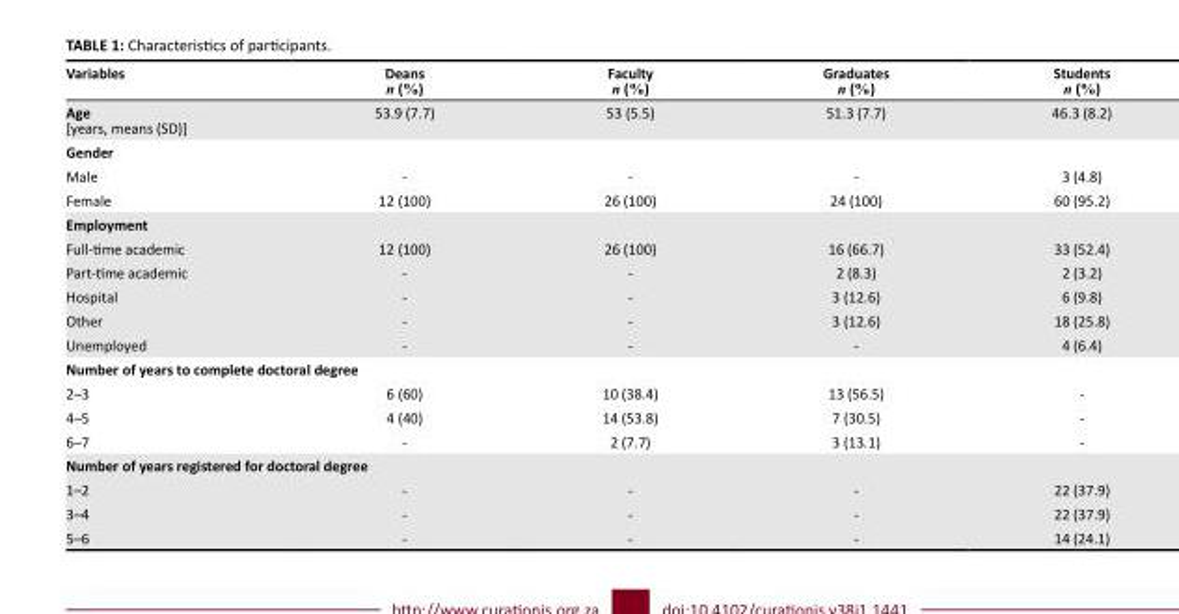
<table><thead><tr><td>Variables</td><td>Deans n (%)</td><td>Faculty n (%)</td><td>Graduates n (%)</td><td>Students n (%)</td></tr></thead><tbody><tr><td>Age [years, means (SD)]</td><td>53.9 (7.7)</td><td>53 (5.5)</td><td>51.3 (7.7)</td><td>46.3 (8.2)</td></tr><tr><td colspan="5">Gender</td></tr><tr><td>Male</td><td>-</td><td>-</td><td>-</td><td>3 (4.8)</td></tr><tr><td>Female</td><td>12 (100)</td><td>26 (100)</td><td>24 (100)</td><td>60 (95.2)</td></tr><tr><td colspan="5">Employment</td></tr><tr><td>Full-time academic</td><td>12 (100)</td><td>26 (100)</td><td>16 (66.7)</td><td>33 (52.4)</td></tr><tr><td>Part-time academic</td><td>-</td><td>-</td><td>2 (8.3)</td><td>2 (3.2)</td></tr><tr><td>Hospital</td><td>-</td><td>-</td><td>3 (12.6)</td><td>6 (9.8)</td></tr><tr><td>Other</td><td>-</td><td>-</td><td>3 (12.6)</td><td>18 (25.8)</td></tr><tr><td>Unemployed</td><td>-</td><td>-</td><td>-</td><td>4 (6.4)</td></tr><tr><td colspan="5">Number of years to complete doctoral degree</td></tr><tr><td>2–3</td><td>6 (60)</td><td>10 (38.4)</td><td>13 (56.5)</td><td>-</td></tr><tr><td>4–5</td><td>4 (40)</td><td>14 (53.8)</td><td>7 (30.5)</td><td>-</td></tr><tr><td>6–7</td><td>-</td><td>2 (7.7)</td><td>3 (13.1)</td><td>-</td></tr><tr><td colspan="5">Number of years registered for doctoral degree</td></tr><tr><td>1–2</td><td>-</td><td>-</td><td>-</td><td>22 (37.9)</td></tr><tr><td>3–4</td><td>-</td><td>-</td><td>-</td><td>22 (37.9)</td></tr><tr><td>5–6</td><td>-</td><td>-</td><td>-</td><td>14 (24.1)</td></tr></tbody></table>